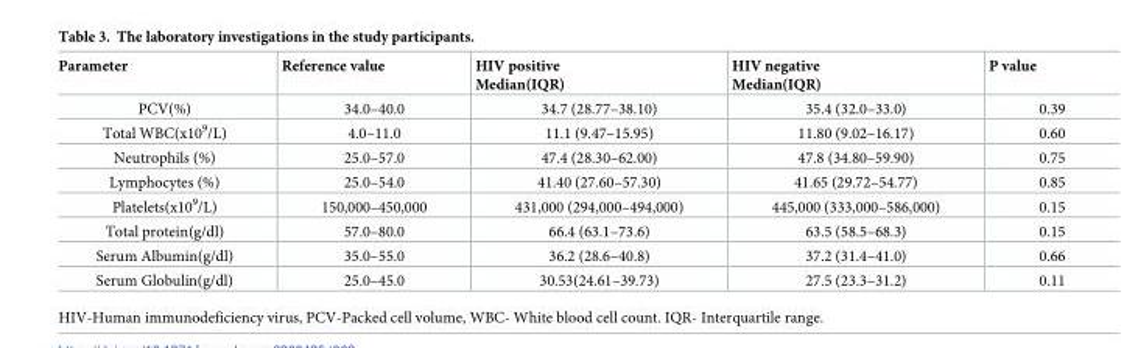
<table><thead><tr><td>Parameter</td><td>Reference value</td><td>HIV positive Median(IQR)</td><td>HIV negative Median(IQR)</td><td>P value</td></tr></thead><tbody><tr><td>PCV(%)</td><td>34.0–40.0</td><td>34.7 (28.77–38.10)</td><td>35.4 (32.0–33.0)</td><td>0.39</td></tr><tr><td>Total WBC(x10<sup>9</sup>/L)</td><td>4.0–11.0</td><td>11.1 (9.47–15.95)</td><td>11.80 (9.02–16.17)</td><td>0.60</td></tr><tr><td>Neutrophils (%)</td><td>25.0–57.0</td><td>47.4 (28.30–62.00)</td><td>47.8 (34.80–59.90)</td><td>0.75</td></tr><tr><td>Lymphocytes (%)</td><td>25.0–54.0</td><td>41.40 (27.60–57.30)</td><td>41.65 (29.72–54.77)</td><td>0.85</td></tr><tr><td>Platelets(x10<sup>9</sup>/L)</td><td>150,000–450,000</td><td>431,000 (294,000–494,000)</td><td>445,000 (333,000–586,000)</td><td>0.15</td></tr><tr><td>Total protein(g/dl)</td><td>57.0–80.0</td><td>66.4 (63.1–73.6)</td><td>63.5 (58.5–68.3)</td><td>0.15</td></tr><tr><td>Serum Albumin(g/dl)</td><td>35.0–55.0</td><td>36.2 (28.6–40.8)</td><td>37.2 (31.4–41.0)</td><td>0.66</td></tr><tr><td>Serum Globulin(g/dl)</td><td>25.0–45.0</td><td>30.53(24.61–39.73)</td><td>27.5 (23.3–31.2)</td><td>0.11</td></tr></tbody></table>